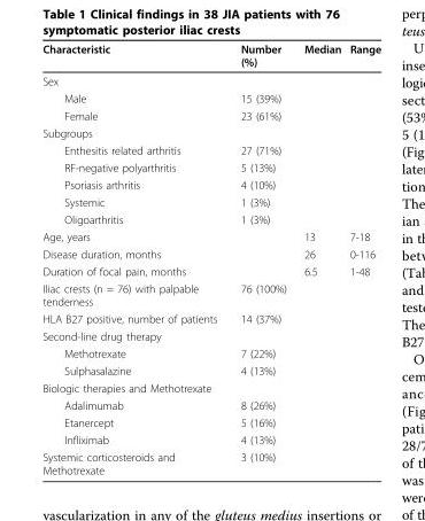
<table><thead><tr><td>Characteristic</td><td>Number (%)</td><td>Median</td><td>Range</td></tr></thead><tbody><tr><td colspan="4">Sex</td></tr><tr><td>Male</td><td>15 (39%)</td><td></td><td></td></tr><tr><td>Female</td><td>23 (61%)</td><td></td><td></td></tr><tr><td colspan="4">Subgroups</td></tr><tr><td>Enthesitis related arthritis</td><td>27 (71%)</td><td></td><td></td></tr><tr><td>RF-negative polyarthritis</td><td>5 (13%)</td><td></td><td></td></tr><tr><td>Psoriasis arthritis</td><td>4 (10%)</td><td></td><td></td></tr><tr><td>Systemic</td><td>1 (3%)</td><td></td><td></td></tr><tr><td>Oligoarthritis</td><td>1 (3%)</td><td></td><td></td></tr><tr><td>Age, years</td><td></td><td>13</td><td>7-18</td></tr><tr><td>Disease duration, months</td><td></td><td>26</td><td>0-116</td></tr><tr><td>Duration of focal pain, months</td><td></td><td>6.5</td><td>1-48</td></tr><tr><td>Iliac crests (n = 76) with palpable tenderness</td><td>76 (100%)</td><td></td><td></td></tr><tr><td>HLA B27 positive, number of patients</td><td>14 (37%)</td><td></td><td></td></tr><tr><td colspan="4">Second-line drug therapy</td></tr><tr><td>Methotrexate</td><td>7 (22%)</td><td></td><td></td></tr><tr><td>Sulphasalazine</td><td>4 (13%)</td><td></td><td></td></tr><tr><td colspan="4">Biologic therapies and Methotrexate</td></tr><tr><td>Adalimumab</td><td>8 (26%)</td><td></td><td></td></tr><tr><td>Etanercept</td><td>5 (16%)</td><td></td><td></td></tr><tr><td>Infliximab</td><td>4 (13%)</td><td></td><td></td></tr><tr><td>Systemic corticosteroids and Methotrexate</td><td>3 (10%)</td><td></td><td></td></tr></tbody></table>